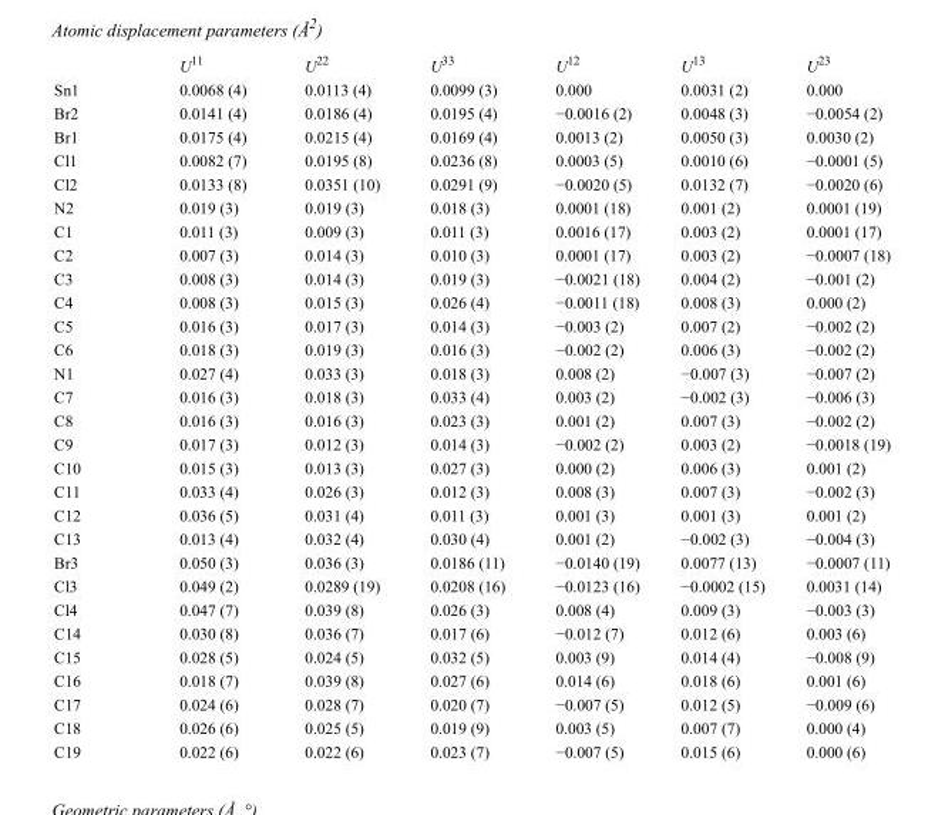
<table><thead><tr><td></td><td>U<sup>11</sup></td><td>U<sup>22</sup></td><td>U<sup>33</sup></td><td>U<sup>12</sup></td><td>U<sup>13</sup></td><td>U<sup>23</sup></td></tr></thead><tbody><tr><td>Sn1</td><td>0.0068 (4)</td><td>0.0113 (4)</td><td>0.0099 (3)</td><td>0.000</td><td>0.0031 (2)</td><td>0.000</td></tr><tr><td>Br2</td><td>0.0141 (4)</td><td>0.0186 (4)</td><td>0.0195 (4)</td><td>−0.0016 (2)</td><td>0.0048 (3)</td><td>−0.0054 (2)</td></tr><tr><td>Br1</td><td>0.0175 (4)</td><td>0.0215 (4)</td><td>0.0169 (4)</td><td>0.0013 (2)</td><td>0.0050 (3)</td><td>0.0030 (2)</td></tr><tr><td>Cl1</td><td>0.0082 (7)</td><td>0.0195 (8)</td><td>0.0236 (8)</td><td>0.0003 (5)</td><td>0.0010 (6)</td><td>−0.0001 (5)</td></tr><tr><td>Cl2</td><td>0.0133 (8)</td><td>0.0351 (10)</td><td>0.0291 (9)</td><td>−0.0020 (5)</td><td>0.0132 (7)</td><td>−0.0020 (6)</td></tr><tr><td>N2</td><td>0.019 (3)</td><td>0.019 (3)</td><td>0.018 (3)</td><td>0.0001 (18)</td><td>0.001 (2)</td><td>0.0001 (19)</td></tr><tr><td>C1</td><td>0.011 (3)</td><td>0.009 (3)</td><td>0.011 (3)</td><td>0.0016 (17)</td><td>0.003 (2)</td><td>0.0001 (17)</td></tr><tr><td>C2</td><td>0.007 (3)</td><td>0.014 (3)</td><td>0.010 (3)</td><td>0.0001 (17)</td><td>0.003 (2)</td><td>−0.0007 (18)</td></tr><tr><td>C3</td><td>0.008 (3)</td><td>0.014 (3)</td><td>0.019 (3)</td><td>−0.0021 (18)</td><td>0.004 (2)</td><td>−0.001 (2)</td></tr><tr><td>C4</td><td>0.008 (3)</td><td>0.015 (3)</td><td>0.026 (4)</td><td>−0.0011 (18)</td><td>0.008 (3)</td><td>0.000 (2)</td></tr><tr><td>C5</td><td>0.016 (3)</td><td>0.017 (3)</td><td>0.014 (3)</td><td>−0.003 (2)</td><td>0.007 (2)</td><td>−0.002 (2)</td></tr><tr><td>C6</td><td>0.018 (3)</td><td>0.019 (3)</td><td>0.016 (3)</td><td>−0.002 (2)</td><td>0.006 (3)</td><td>−0.002 (2)</td></tr><tr><td>N1</td><td>0.027 (4)</td><td>0.033 (3)</td><td>0.018 (3)</td><td>0.008 (2)</td><td>−0.007 (3)</td><td>−0.007 (2)</td></tr><tr><td>C7</td><td>0.016 (3)</td><td>0.018 (3)</td><td>0.033 (4)</td><td>0.003 (2)</td><td>−0.002 (3)</td><td>−0.006 (3)</td></tr><tr><td>C8</td><td>0.016 (3)</td><td>0.016 (3)</td><td>0.023 (3)</td><td>0.001 (2)</td><td>0.007 (3)</td><td>−0.002 (2)</td></tr><tr><td>C9</td><td>0.017 (3)</td><td>0.012 (3)</td><td>0.014 (3)</td><td>−0.002 (2)</td><td>0.003 (2)</td><td>−0.0018 (19)</td></tr><tr><td>C10</td><td>0.015 (3)</td><td>0.013 (3)</td><td>0.027 (3)</td><td>0.000 (2)</td><td>0.006 (3)</td><td>0.001 (2)</td></tr><tr><td>C11</td><td>0.033 (4)</td><td>0.026 (3)</td><td>0.012 (3)</td><td>0.008 (3)</td><td>0.007 (3)</td><td>−0.002 (3)</td></tr><tr><td>C12</td><td>0.036 (5)</td><td>0.031 (4)</td><td>0.011 (3)</td><td>0.001 (3)</td><td>0.001 (3)</td><td>0.001 (2)</td></tr><tr><td>C13</td><td>0.013 (4)</td><td>0.032 (4)</td><td>0.030 (4)</td><td>0.001 (2)</td><td>−0.002 (3)</td><td>−0.004 (3)</td></tr><tr><td>Br3</td><td>0.050 (3)</td><td>0.036 (3)</td><td>0.0186 (11)</td><td>−0.0140 (19)</td><td>0.0077 (13)</td><td>−0.0007 (11)</td></tr><tr><td>Cl3</td><td>0.049 (2)</td><td>0.0289 (19)</td><td>0.0208 (16)</td><td>−0.0123 (16)</td><td>−0.0002 (15)</td><td>0.0031 (14)</td></tr><tr><td>Cl4</td><td>0.047 (7)</td><td>0.039 (8)</td><td>0.026 (3)</td><td>0.008 (4)</td><td>0.009 (3)</td><td>−0.003 (3)</td></tr><tr><td>C14</td><td>0.030 (8)</td><td>0.036 (7)</td><td>0.017 (6)</td><td>−0.012 (7)</td><td>0.012 (6)</td><td>0.003 (6)</td></tr><tr><td>C15</td><td>0.028 (5)</td><td>0.024 (5)</td><td>0.032 (5)</td><td>0.003 (9)</td><td>0.014 (4)</td><td>−0.008 (9)</td></tr><tr><td>C16</td><td>0.018 (7)</td><td>0.039 (8)</td><td>0.027 (6)</td><td>0.014 (6)</td><td>0.018 (6)</td><td>0.001 (6)</td></tr><tr><td>C17</td><td>0.024 (6)</td><td>0.028 (7)</td><td>0.020 (7)</td><td>−0.007 (5)</td><td>0.012 (5)</td><td>−0.009 (6)</td></tr><tr><td>C18</td><td>0.026 (6)</td><td>0.025 (5)</td><td>0.019 (9)</td><td>0.003 (5)</td><td>0.007 (7)</td><td>0.000 (4)</td></tr><tr><td>C19</td><td>0.022 (6)</td><td>0.022 (6)</td><td>0.023 (7)</td><td>−0.007 (5)</td><td>0.015 (6)</td><td>0.000 (6)</td></tr></tbody></table>